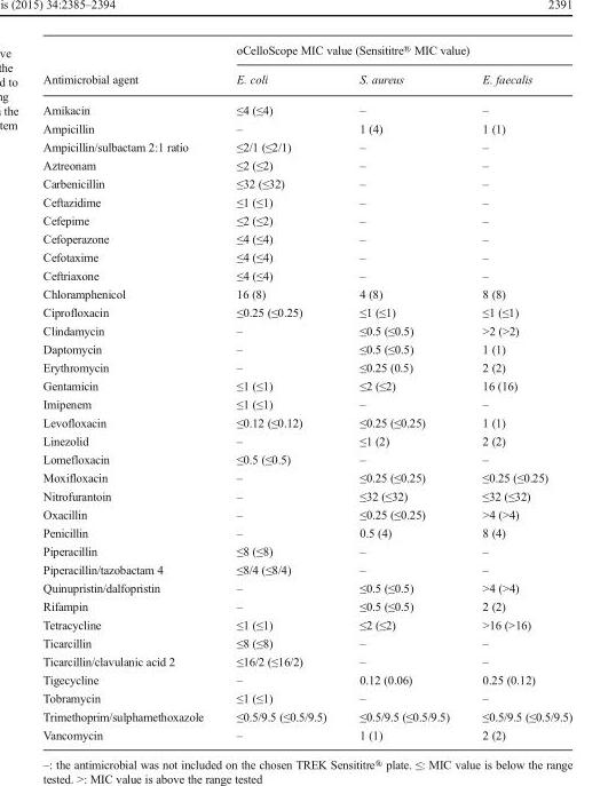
<table><thead><tr><td rowspan="2">Antimicrobial agent</td><td colspan="3">oCelloScope MIC value (Sensititre® MIC value)</td></tr><tr><td>E. coli</td><td>S. aureus</td><td>E. faecalis</td></tr></thead><tbody><tr><td>Amikacin</td><td>≤4 (≤4)</td><td>–</td><td>–</td></tr><tr><td>Ampicillin</td><td>–</td><td>1 (4)</td><td>1 (1)</td></tr><tr><td>Ampicillin/sulbactam 2:1 ratio</td><td>≤2/1 (≤2/1)</td><td>–</td><td>–</td></tr><tr><td>Aztreonam</td><td>≤2 (≤2)</td><td>–</td><td>–</td></tr><tr><td>Carbenicillin</td><td>≤32 (≤32)</td><td>–</td><td>–</td></tr><tr><td>Ceftazidime</td><td>≤1 (≤1)</td><td>–</td><td>–</td></tr><tr><td>Cefepime</td><td>≤2 (≤2)</td><td>–</td><td>–</td></tr><tr><td>Cefoperazone</td><td>≤4 (≤4)</td><td>–</td><td>–</td></tr><tr><td>Cefotaxime</td><td>≤4 (≤4)</td><td>–</td><td>–</td></tr><tr><td>Ceftriaxone</td><td>≤4 (≤4)</td><td>–</td><td>–</td></tr><tr><td>Chloramphenicol</td><td>16 (8)</td><td>4 (8)</td><td>8 (8)</td></tr><tr><td>Ciprofloxacin</td><td>≤0.25 (≤0.25)</td><td>≤1 (≤1)</td><td>≤1 (≤1)</td></tr><tr><td>Clindamycin</td><td>–</td><td>≤0.5 (≤0.5)</td><td>&gt;2 (&gt;2)</td></tr><tr><td>Daptomycin</td><td>–</td><td>≤0.5 (≤0.5)</td><td>1 (1)</td></tr><tr><td>Erythromycin</td><td>–</td><td>≤0.25 (0.5)</td><td>2 (2)</td></tr><tr><td>Gentamicin</td><td>≤1 (≤1)</td><td>≤2 (≤2)</td><td>16 (16)</td></tr><tr><td>Imipenem</td><td>≤1 (≤1)</td><td>–</td><td>–</td></tr><tr><td>Levofloxacin</td><td>≤0.12 (≤0.12)</td><td>≤0.25 (≤0.25)</td><td>1 (1)</td></tr><tr><td>Linezolid</td><td>–</td><td>≤1 (2)</td><td>2 (2)</td></tr><tr><td>Lomefloxacin</td><td>≤0.5 (≤0.5)</td><td>–</td><td>–</td></tr><tr><td>Moxifloxacin</td><td>–</td><td>≤0.25 (≤0.25)</td><td>≤0.25 (≤0.25)</td></tr><tr><td>Nitrofurantoin</td><td>–</td><td>≤32 (≤32)</td><td>≤32 (≤32)</td></tr><tr><td>Oxacillin</td><td>–</td><td>≤0.25 (≤0.25)</td><td>&gt;4 (&gt;4)</td></tr><tr><td>Penicillin</td><td>–</td><td>0.5 (4)</td><td>8 (4)</td></tr><tr><td>Piperacillin</td><td>≤8 (≤8)</td><td>–</td><td>–</td></tr><tr><td>Piperacillin/tazobactam 4</td><td>≤8/4 (≤8/4)</td><td>–</td><td>–</td></tr><tr><td>Quinupristin/dalfopristin</td><td>–</td><td>≤0.5 (≤0.5)</td><td>&gt;4 (&gt;4)</td></tr><tr><td>Rifampin</td><td>–</td><td>≤0.5 (≤0.5)</td><td>2 (2)</td></tr><tr><td>Tetracycline</td><td>≤1 (≤1)</td><td>≤2 (≤2)</td><td>&gt;16 (&gt;16)</td></tr><tr><td>Ticarcillin</td><td>≤8 (≤8)</td><td>–</td><td>–</td></tr><tr><td>Ticarcillin/clavulanic acid 2</td><td>≤16/2 (≤16/2)</td><td>–</td><td>–</td></tr><tr><td>Tigecycline</td><td>–</td><td>0.12 (0.06)</td><td>0.25 (0.12)</td></tr><tr><td>Tobramycin</td><td>≤1 (≤1)</td><td>–</td><td>–</td></tr><tr><td>Trimethoprim/sulphamethoxazole</td><td>≤0.5/9.5 (≤0.5/9.5)</td><td>≤0.5/9.5 (≤0.5/9.5)</td><td>≤0.5/9.5 (≤0.5/9.5)</td></tr><tr><td>Vancomycin</td><td>–</td><td>1 (1)</td><td>2 (2)</td></tr></tbody></table>